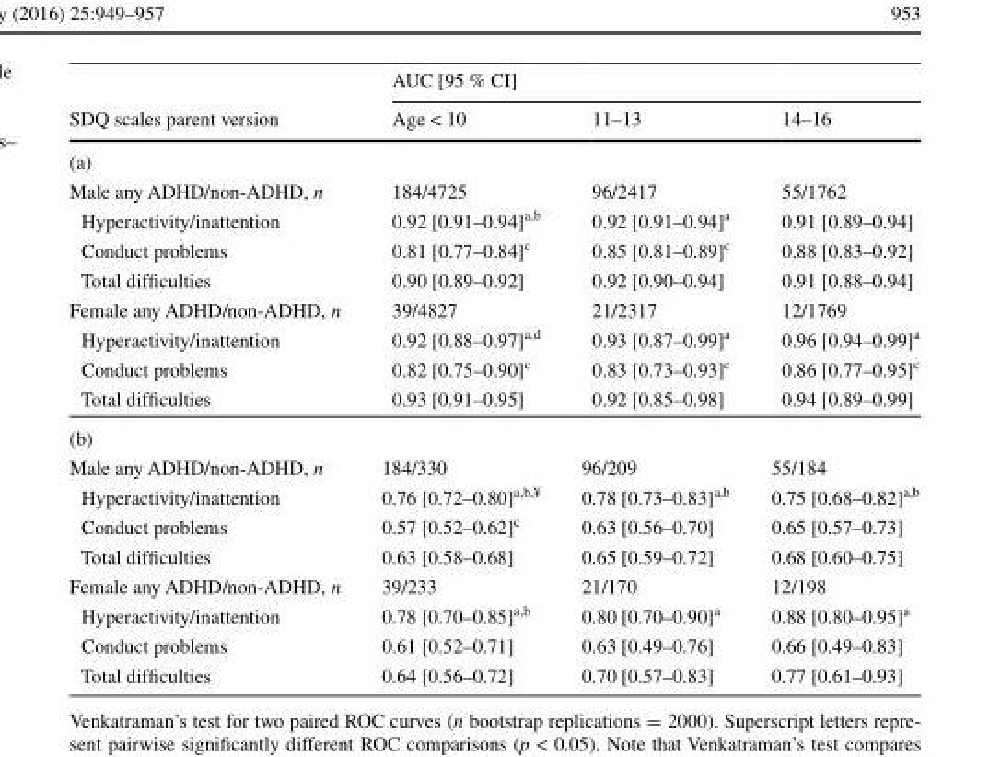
<table><thead><tr><td rowspan="2">SDQ scales parent version</td><td colspan="3">AUC [95 % CI]</td></tr><tr><td>Age &lt; 10</td><td>11–13</td><td>14–16</td></tr></thead><tbody><tr><td colspan="4">(a)</td></tr><tr><td>Male any ADHD/non-ADHD, n</td><td>184/4725</td><td>96/2417</td><td>55/1762</td></tr><tr><td>Hyperactivity/inattention</td><td>0.92 [0.91–0.94]<sup>a,b</sup></td><td>0.92 [0.91–0.94]<sup>a</sup></td><td>0.91 [0.89–0.94]</td></tr><tr><td>Conduct problems</td><td>0.81 [0.77–0.84]<sup>c</sup></td><td>0.85 [0.81–0.89]<sup>c</sup></td><td>0.88 [0.83–0.92]</td></tr><tr><td>Total difficulties</td><td>0.90 [0.89–0.92]</td><td>0.92 [0.90–0.94]</td><td>0.91 [0.88–0.94]</td></tr><tr><td>Female any ADHD/non-ADHD, n</td><td>39/4827</td><td>21/2317</td><td>12/1769</td></tr><tr><td>Hyperactivity/inattention</td><td>0.92 [0.88–0.97]<sup>a,d</sup></td><td>0.93 [0.87–0.99]<sup>a</sup></td><td>0.96 [0.94–0.99]<sup>a</sup></td></tr><tr><td>Conduct problems</td><td>0.82 [0.75–0.90]<sup>c</sup></td><td>0.83 [0.73–0.93]<sup>c</sup></td><td>0.86 [0.77–0.95]<sup>c</sup></td></tr><tr><td>Total difficulties</td><td>0.93 [0.91–0.95]</td><td>0.92 [0.85–0.98]</td><td>0.94 [0.89–0.99]</td></tr><tr><td colspan="4">(b)</td></tr><tr><td>Male any ADHD/non-ADHD, n</td><td>184/330</td><td>96/209</td><td>55/184</td></tr><tr><td>Hyperactivity/inattention</td><td>0.76 [0.72–0.80]<sup>a,b,¥</sup></td><td>0.78 [0.73–0.83]<sup>a,b</sup></td><td>0.75 [0.68–0.82]<sup>a,b</sup></td></tr><tr><td>Conduct problems</td><td>0.57 [0.52–0.62]<sup>c</sup></td><td>0.63 [0.56–0.70]</td><td>0.65 [0.57–0.73]</td></tr><tr><td>Total difficulties</td><td>0.63 [0.58–0.68]</td><td>0.65 [0.59–0.72]</td><td>0.68 [0.60–0.75]</td></tr><tr><td>Female any ADHD/non-ADHD, n</td><td>39/233</td><td>21/170</td><td>12/198</td></tr><tr><td>Hyperactivity/inattention</td><td>0.78 [0.70–0.85]<sup>a,b</sup></td><td>0.80 [0.70–0.90]<sup>a</sup></td><td>0.88 [0.80–0.95]<sup>a</sup></td></tr><tr><td>Conduct problems</td><td>0.61 [0.52–0.71]</td><td>0.63 [0.49–0.76]</td><td>0.66 [0.49–0.83]</td></tr><tr><td>Total difficulties</td><td>0.64 [0.56–0.72]</td><td>0.70 [0.57–0.83]</td><td>0.77 [0.61–0.93]</td></tr></tbody></table>